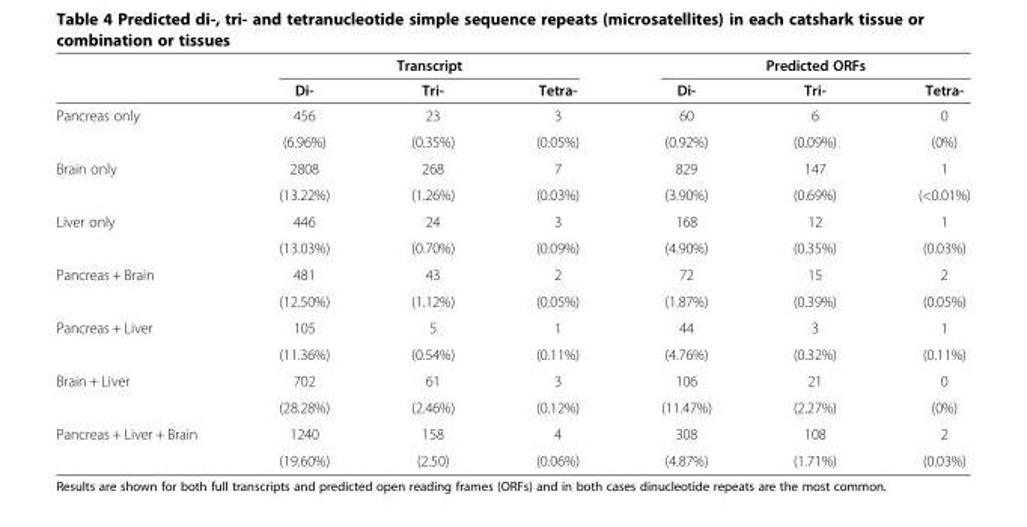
<table><thead><tr><td rowspan="2"></td><td colspan="3">Transcript</td><td colspan="3">Predicted ORFs</td></tr><tr><td>Di-</td><td>Tri-</td><td>Tetra-</td><td>Di-</td><td>Tri-</td><td>Tetra-</td></tr></thead><tbody><tr><td rowspan="2">Pancreas only</td><td>456</td><td>23</td><td>3</td><td>60</td><td>6</td><td>0</td></tr><tr><td>(6.96%)</td><td>(0.35%)</td><td>(0.05%)</td><td>(0.92%)</td><td>(0.09%)</td><td>(0%)</td></tr><tr><td rowspan="2">Brain only</td><td>2808</td><td>268</td><td>7</td><td>829</td><td>147</td><td>1</td></tr><tr><td>(13.22%)</td><td>(1.26%)</td><td>(0.03%)</td><td>(3.90%)</td><td>(0.69%)</td><td>(&lt;0.01%)</td></tr><tr><td rowspan="2">Liver only</td><td>446</td><td>24</td><td>3</td><td>168</td><td>12</td><td>1</td></tr><tr><td>(13.03%)</td><td>(0.70%)</td><td>(0.09%)</td><td>(4.90%)</td><td>(0.35%)</td><td>(0.03%)</td></tr><tr><td rowspan="2">Pancreas + Brain</td><td>481</td><td>43</td><td>2</td><td>72</td><td>15</td><td>2</td></tr><tr><td>(12.50%)</td><td>(1.12%)</td><td>(0.05%)</td><td>(1.87%)</td><td>(0.39%)</td><td>(0.05%)</td></tr><tr><td rowspan="2">Pancreas + Liver</td><td>105</td><td>5</td><td>1</td><td>44</td><td>3</td><td>1</td></tr><tr><td>(11.36%)</td><td>(0.54%)</td><td>(0.11%)</td><td>(4.76%)</td><td>(0.32%)</td><td>(0.11%)</td></tr><tr><td rowspan="2">Brain + Liver</td><td>702</td><td>61</td><td>3</td><td>106</td><td>21</td><td>0</td></tr><tr><td>(28.28%)</td><td>(2.46%)</td><td>(0.12%)</td><td>(11.47%)</td><td>(2.27%)</td><td>(0%)</td></tr><tr><td rowspan="2">Pancreas + Liver + Brain</td><td>1240</td><td>158</td><td>4</td><td>308</td><td>108</td><td>2</td></tr><tr><td>(19.60%)</td><td>(2.50)</td><td>(0.06%)</td><td>(4.87%)</td><td>(1.71%)</td><td>(0.03%)</td></tr></tbody></table>